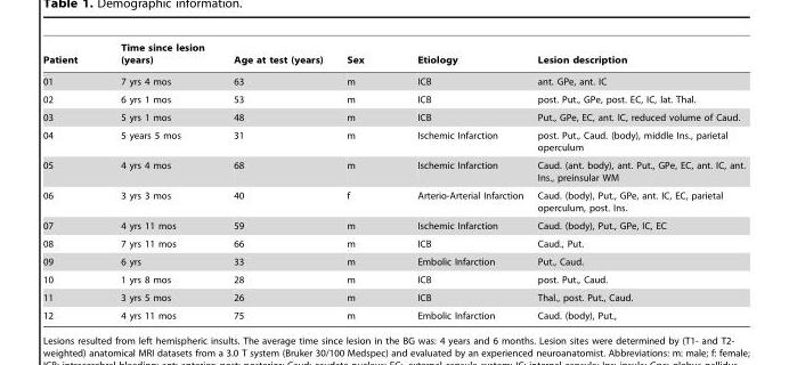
<table><thead><tr><td>Patient</td><td>Time since lesion (years)</td><td>Age at test (years)</td><td>Sex</td><td>Etiology</td><td>Lesion description</td></tr></thead><tbody><tr><td>01</td><td>7 yrs 4 mos</td><td>63</td><td>m</td><td>ICB</td><td>ant. GPe, ant. IC</td></tr><tr><td>02</td><td>6 yrs 1 mos</td><td>53</td><td>m</td><td>ICB</td><td>post. Put., GPe, post. EC, IC, lat. Thal.</td></tr><tr><td>03</td><td>5 yrs 1 mos</td><td>48</td><td>m</td><td>ICB</td><td>Put., GPe, EC, ant. IC, reduced volume of Caud.</td></tr><tr><td>04</td><td>5 years 5 mos</td><td>31</td><td>m</td><td>Ischemic Infarction</td><td>post. Put., Caud. (body), middle Ins., parietal operculum</td></tr><tr><td>05</td><td>4 yrs 4 mos</td><td>68</td><td>m</td><td>Ischemic Infarction</td><td>Caud. (ant. body), ant. Put., GPe, EC, ant. IC, ant. Ins., preinsular WM</td></tr><tr><td>06</td><td>3 yrs 3 mos</td><td>40</td><td>f</td><td>Arterio-Arterial Infarction</td><td>Caud. (body), Put., GPe, ant. IC, EC, parietal operculum, post. Ins.</td></tr><tr><td>07</td><td>4 yrs 11 mos</td><td>59</td><td>m</td><td>Ischemic Infarction</td><td>Caud. (body), Put., GPe, IC, EC</td></tr><tr><td>08</td><td>7 yrs 11 mos</td><td>66</td><td>m</td><td>ICB</td><td>Caud., Put.</td></tr><tr><td>09</td><td>6 yrs</td><td>33</td><td>m</td><td>Embolic Infarction</td><td>Put., Caud.</td></tr><tr><td>10</td><td>1 yrs 8 mos</td><td>28</td><td>m</td><td>ICB</td><td>post. Put., Caud.</td></tr><tr><td>11</td><td>3 yrs 5 mos</td><td>26</td><td>m</td><td>ICB</td><td>Thal., post. Put., Caud.</td></tr><tr><td>12</td><td>4 yrs 11 mos</td><td>75</td><td>m</td><td>Embolic Infarction</td><td>Caud. (body), Put.,</td></tr></tbody></table>